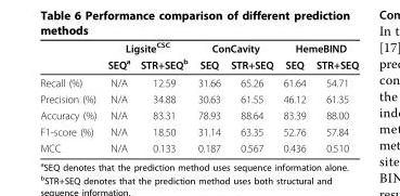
<table><thead><tr><td rowspan="2"></td><td colspan="2">Ligsite<sup>CSC</sup></td><td colspan="2">ConCavity</td><td colspan="2">HemeBIND</td></tr><tr><td>SEQ<sup>a</sup></td><td>STR+SEQ<sup>b</sup></td><td>SEQ</td><td>STR+SEQ</td><td>SEQ</td><td>STR+SEQ</td></tr></thead><tbody><tr><td>Recall (%)</td><td>N/A</td><td>12.59</td><td>31.66</td><td>65.26</td><td>61.64</td><td>54.71</td></tr><tr><td>Precision (%)</td><td>N/A</td><td>34.88</td><td>30.63</td><td>61.55</td><td>46.12</td><td>61.35</td></tr><tr><td>Accuracy (%)</td><td>N/A</td><td>83.31</td><td>78.93</td><td>88.64</td><td>83.39</td><td>88.00</td></tr><tr><td>F1-score (%)</td><td>N/A</td><td>18.50</td><td>31.14</td><td>63.35</td><td>52.76</td><td>57.84</td></tr><tr><td>MCC</td><td>N/A</td><td>0.133</td><td>0.187</td><td>0.567</td><td>0.436</td><td>0.510</td></tr></tbody></table>